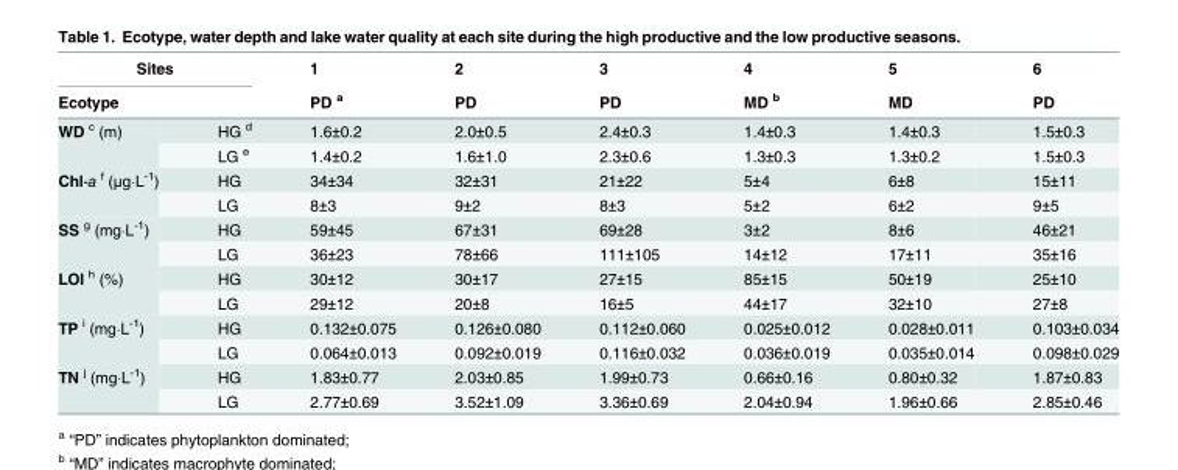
<table><thead><tr><td colspan="2">Sites</td><td rowspan="2">1 PD <sup>a</sup></td><td rowspan="2">2 PD</td><td rowspan="2">3 PD</td><td rowspan="2">4 MD <sup>b</sup></td><td rowspan="2">5 MD</td><td rowspan="2">6 PD</td></tr><tr><td>Ecotype</td><td></td></tr></thead><tbody><tr><td rowspan="2">WD <sup>c</sup> (m)</td><td>HG <sup>d</sup></td><td>1.6±0.2</td><td>2.0±0.5</td><td>2.4±0.3</td><td>1.4±0.3</td><td>1.4±0.3</td><td>1.5±0.3</td></tr><tr><td>LG <sup>e</sup></td><td>1.4±0.2</td><td>1.6±1.0</td><td>2.3±0.6</td><td>1.3±0.3</td><td>1.3±0.2</td><td>1.5±0.3</td></tr><tr><td rowspan="2">Chl-a <sup>f</sup> (μg∙L<sup>-1</sup>)</td><td>HG</td><td>34±34</td><td>32±31</td><td>21±22</td><td>5±4</td><td>6±8</td><td>15±11</td></tr><tr><td>LG</td><td>8±3</td><td>9±2</td><td>8±3</td><td>5±2</td><td>6±2</td><td>9±5</td></tr><tr><td rowspan="2">SS <sup>g</sup> (mg∙L<sup>-1</sup>)</td><td>HG</td><td>59±45</td><td>67±31</td><td>69±28</td><td>3±2</td><td>8±6</td><td>46±21</td></tr><tr><td>LG</td><td>36±23</td><td>78±66</td><td>111±105</td><td>14±12</td><td>17±11</td><td>35±16</td></tr><tr><td rowspan="2">LOI <sup>h</sup> (%)</td><td>HG</td><td>30±12</td><td>30±17</td><td>27±15</td><td>85±15</td><td>50±19</td><td>25±10</td></tr><tr><td>LG</td><td>29±12</td><td>20±8</td><td>16±5</td><td>44±17</td><td>32±10</td><td>27±8</td></tr><tr><td rowspan="2">TP <sup>i</sup> (mg∙L<sup>-1</sup>)</td><td>HG</td><td>0.132±0.075</td><td>0.126±0.080</td><td>0.112±0.060</td><td>0.025±0.012</td><td>0.028±0.011</td><td>0.103±0.034</td></tr><tr><td>LG</td><td>0.064±0.013</td><td>0.092±0.019</td><td>0.116±0.032</td><td>0.036±0.019</td><td>0.035±0.014</td><td>0.098±0.029</td></tr><tr><td rowspan="2">TN <sup>j</sup> (mg∙L<sup>-1</sup>)</td><td>HG</td><td>1.83±0.77</td><td>2.03±0.85</td><td>1.99±0.73</td><td>0.66±0.16</td><td>0.80±0.32</td><td>1.87±0.83</td></tr><tr><td>LG</td><td>2.77±0.69</td><td>3.52±1.09</td><td>3.36±0.69</td><td>2.04±0.94</td><td>1.96±0.66</td><td>2.85±0.46</td></tr></tbody></table>